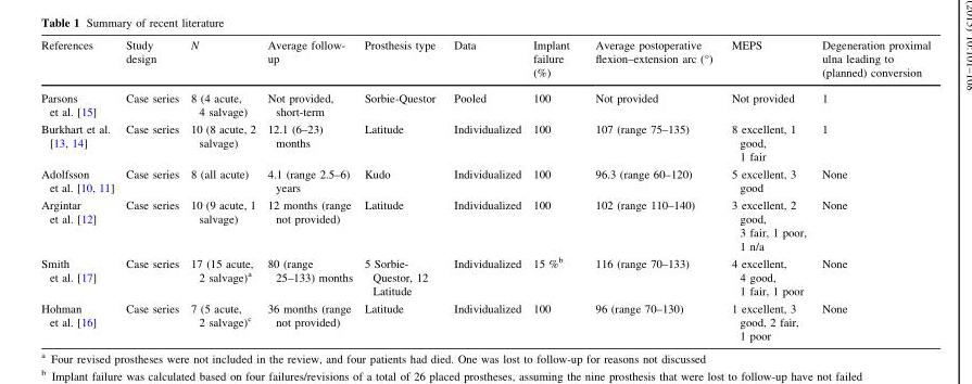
<table><thead><tr><td>References</td><td>Study design</td><td>N</td><td>Average follow- up</td><td>Prosthesis type</td><td>Data</td><td>Implant failure (%)</td><td>Average postoperative flexion–extension arc (°)</td><td>MEPS</td><td>Degeneration proximal ulna leading to (planned) conversion</td></tr></thead><tbody><tr><td>Parsons et al. [15]</td><td>Case series</td><td>8 (4 acute, 4 salvage)</td><td>Not provided, short-term</td><td>Sorbie-Questor</td><td>Pooled</td><td>100</td><td>Not provided</td><td>Not provided</td><td>1</td></tr><tr><td>Burkhart et al. [13, 14]</td><td>Case series</td><td>10 (8 acute, 2 salvage)</td><td>12.1 (6–23) months</td><td>Latitude</td><td>Individualized</td><td>100</td><td>107 (range 75–135)</td><td>8 excellent, 1 good, 1 fair</td><td>1</td></tr><tr><td>Adolfsson et al. [10, 11]</td><td>Case series</td><td>8 (all acute)</td><td>4.1 (range 2.5–6) years</td><td>Kudo</td><td>Individualized</td><td>100</td><td>96.3 (range 60–120)</td><td>5 excellent, 3 good</td><td>None</td></tr><tr><td>Argintar et al. [12]</td><td>Case series</td><td>10 (9 acute, 1 salvage)</td><td>12 months (range not provided)</td><td>Latitude</td><td>Individualized</td><td>100</td><td>102 (range 110–140)</td><td>3 excellent, 2 good, 3 fair, 1 poor, 1 n/a</td><td>None</td></tr><tr><td>Smith et al. [17]</td><td>Case series</td><td>17 (15 acute, 2 salvage)<sup>a</sup></td><td>80 (range 25–133) months</td><td>5 Sorbie- Questor, 12 Latitude</td><td>Individualized</td><td>15 %<sup>b</sup></td><td>116 (range 70–133)</td><td>4 excellent, 4 good, 1 fair, 1 poor</td><td>None</td></tr><tr><td>Hohman et al. [16]</td><td>Case series</td><td>7 (5 acute, 2 salvage)<sup>c</sup></td><td>36 months (range not provided)</td><td>Latitude</td><td>Individualized</td><td>100</td><td>96 (range 70–130)</td><td>1 excellent, 3 good, 2 fair, 1 poor</td><td>None</td></tr></tbody></table>